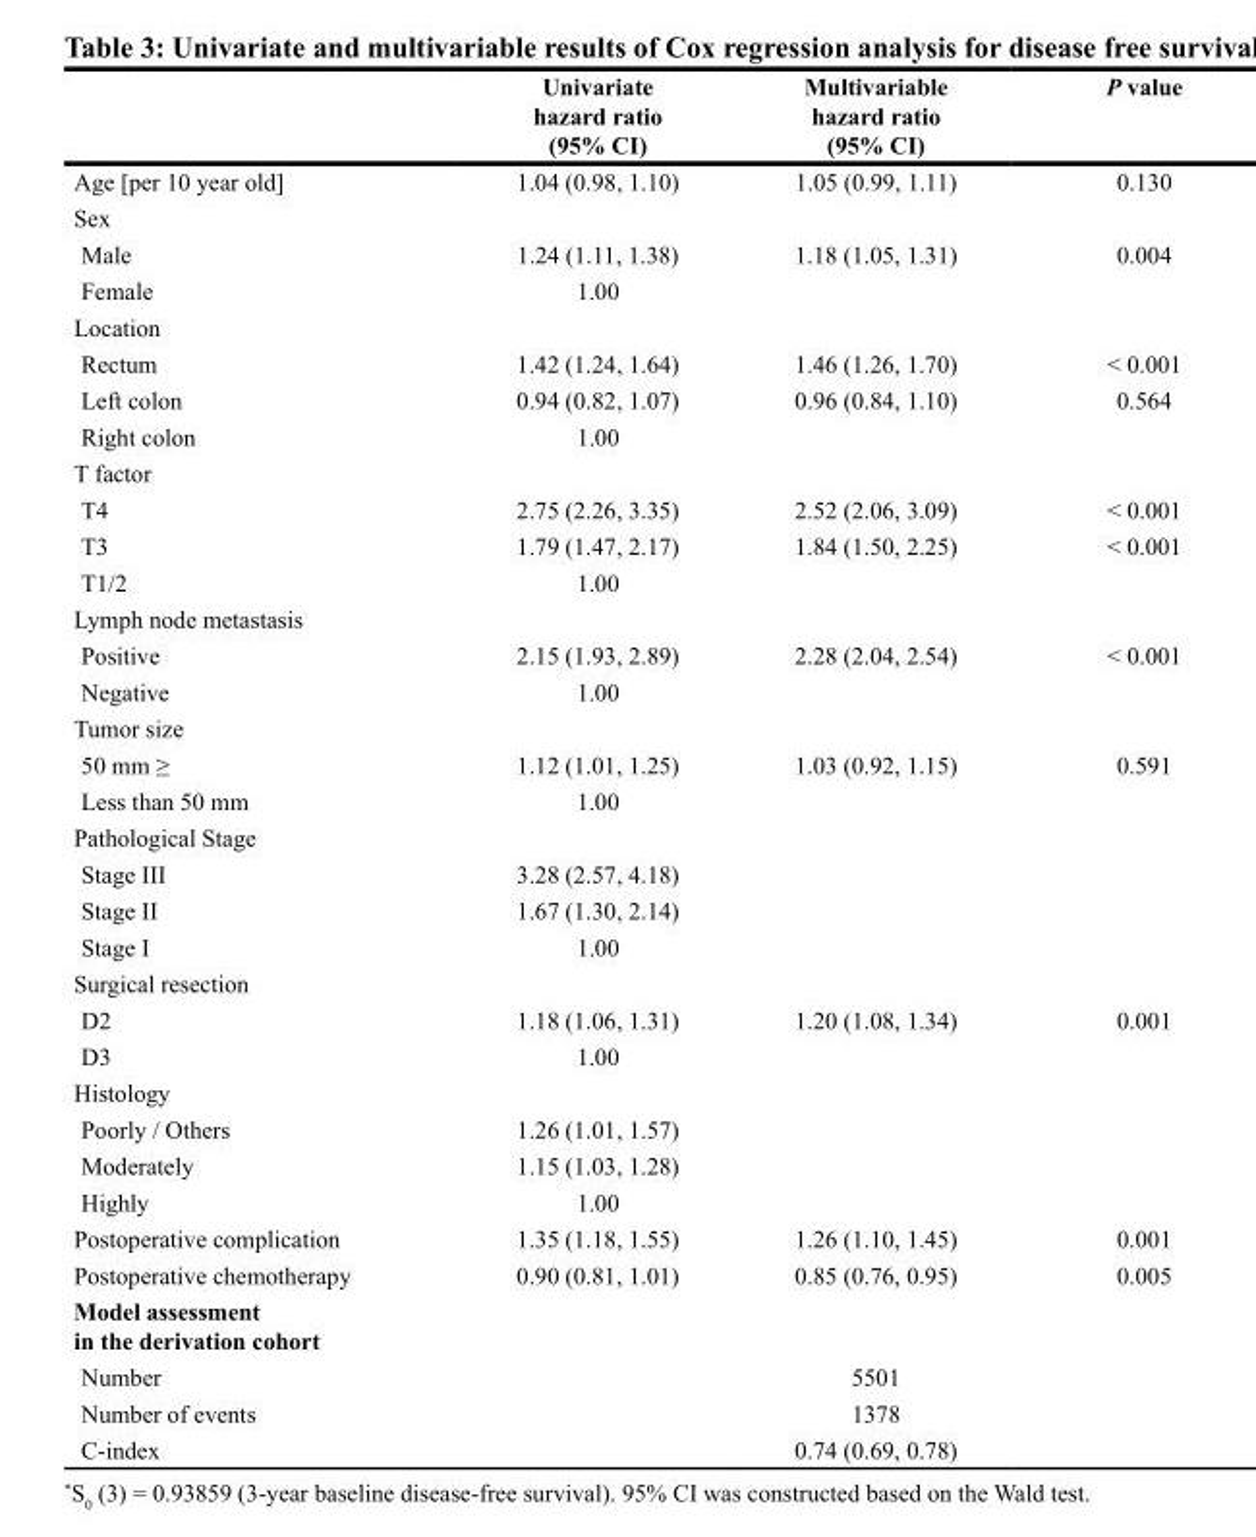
<table><thead><tr><td></td><td>Univariate hazard ratio (95% CI)</td><td>Multivariable hazard ratio (95% CI)</td><td>P value</td></tr></thead><tbody><tr><td>Age [per 10 year old]</td><td>1.04 (0.98, 1.10)</td><td>1.05 (0.99, 1.11)</td><td>0.130</td></tr><tr><td colspan="4">Sex</td></tr><tr><td>Male</td><td>1.24 (1.11, 1.38)</td><td>1.18 (1.05, 1.31)</td><td>0.004</td></tr><tr><td>Female</td><td>1.00</td><td></td><td></td></tr><tr><td colspan="4">Location</td></tr><tr><td>Rectum</td><td>1.42 (1.24, 1.64)</td><td>1.46 (1.26, 1.70)</td><td>&lt; 0.001</td></tr><tr><td>Left colon</td><td>0.94 (0.82, 1.07)</td><td>0.96 (0.84, 1.10)</td><td>0.564</td></tr><tr><td>Right colon</td><td>1.00</td><td></td><td></td></tr><tr><td colspan="4">T factor</td></tr><tr><td>T4</td><td>2.75 (2.26, 3.35)</td><td>2.52 (2.06, 3.09)</td><td>&lt; 0.001</td></tr><tr><td>T3</td><td>1.79 (1.47, 2.17)</td><td>1.84 (1.50, 2.25)</td><td>&lt; 0.001</td></tr><tr><td>T1/2</td><td>1.00</td><td></td><td></td></tr><tr><td colspan="4">Lymph node metastasis</td></tr><tr><td>Positive</td><td>2.15 (1.93, 2.89)</td><td>2.28 (2.04, 2.54)</td><td>&lt; 0.001</td></tr><tr><td>Negative</td><td>1.00</td><td></td><td></td></tr><tr><td colspan="4">Tumor size</td></tr><tr><td>50 mm ≥</td><td>1.12 (1.01, 1.25)</td><td>1.03 (0.92, 1.15)</td><td>0.591</td></tr><tr><td>Less than 50 mm</td><td>1.00</td><td></td><td></td></tr><tr><td colspan="4">Pathological Stage</td></tr><tr><td>Stage III</td><td>3.28 (2.57, 4.18)</td><td></td><td></td></tr><tr><td>Stage II</td><td>1.67 (1.30, 2.14)</td><td></td><td></td></tr><tr><td>Stage I</td><td>1.00</td><td></td><td></td></tr><tr><td colspan="4">Surgical resection</td></tr><tr><td>D2</td><td>1.18 (1.06, 1.31)</td><td>1.20 (1.08, 1.34)</td><td>0.001</td></tr><tr><td>D3</td><td>1.00</td><td></td><td></td></tr><tr><td colspan="4">Histology</td></tr><tr><td>Poorly / Others</td><td>1.26 (1.01, 1.57)</td><td></td><td></td></tr><tr><td>Moderately</td><td>1.15 (1.03, 1.28)</td><td></td><td></td></tr><tr><td>Highly</td><td>1.00</td><td></td><td></td></tr><tr><td>Postoperative complication</td><td>1.35 (1.18, 1.55)</td><td>1.26 (1.10, 1.45)</td><td>0.001</td></tr><tr><td>Postoperative chemotherapy</td><td>0.90 (0.81, 1.01)</td><td>0.85 (0.76, 0.95)</td><td>0.005</td></tr><tr><td colspan="4">Model assessment in the derivation cohort</td></tr><tr><td>Number</td><td></td><td>5501</td><td></td></tr><tr><td>Number of events</td><td></td><td>1378</td><td></td></tr><tr><td>C-index</td><td></td><td>0.74 (0.69, 0.78)</td><td></td></tr></tbody></table>